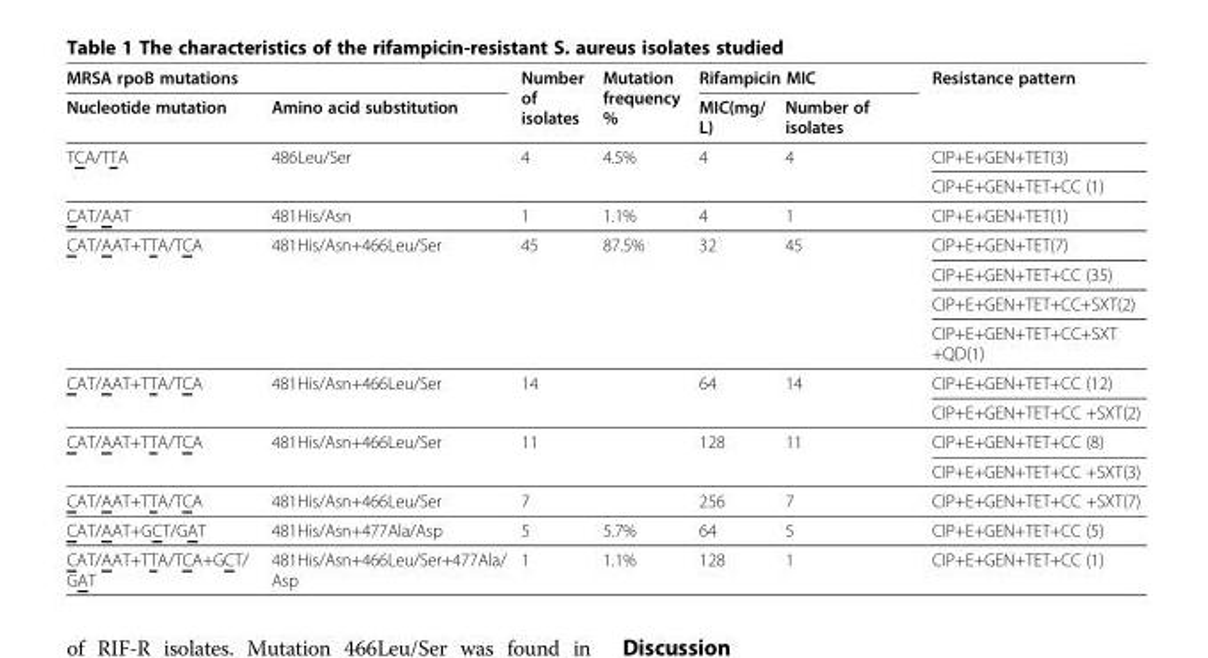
<table><thead><tr><td colspan="2">MRSA rpoB mutations</td><td rowspan="2">Number of isolates</td><td rowspan="2">Mutation frequency %</td><td colspan="2">Rifampicin MIC</td><td rowspan="2">Resistance pattern</td></tr><tr><td>Nucleotide mutation</td><td>Amino acid substitution</td><td>MIC(mg/ L)</td><td>Number of isolates</td></tr></thead><tbody><tr><td rowspan="2">TCA/TTA</td><td rowspan="2">486Leu/Ser</td><td rowspan="2">4</td><td rowspan="2">4.5%</td><td rowspan="2">4</td><td rowspan="2">4</td><td>CIP+E+GEN+TET(3)</td></tr><tr><td>CIP+E+GEN+TET+CC (1)</td></tr><tr><td>CAT/AAT</td><td>481His/Asn</td><td>1</td><td>1.1%</td><td>4</td><td>1</td><td>CIP+E+GEN+TET(1)</td></tr><tr><td rowspan="4">CAT/AAT+TTA/TCA</td><td rowspan="4">481His/Asn+466Leu/Ser</td><td rowspan="4">45</td><td rowspan="4">87.5%</td><td rowspan="4">32</td><td rowspan="4">45</td><td>CIP+E+GEN+TET(7)</td></tr><tr><td>CIP+E+GEN+TET+CC (35)</td></tr><tr><td>CIP+E+GEN+TET+CC+SXT(2)</td></tr><tr><td>CIP+E+GEN+TET+CC+SXT +QD(1)</td></tr><tr><td rowspan="2">CAT/AAT+TTA/TCA</td><td rowspan="2">481His/Asn+466Leu/Ser</td><td rowspan="2">14</td><td rowspan="2"></td><td rowspan="2">64</td><td rowspan="2">14</td><td>CIP+E+GEN+TET+CC (12)</td></tr><tr><td>CIP+E+GEN+TET+CC +SXT(2)</td></tr><tr><td rowspan="2">CAT/AAT+TTA/TCA</td><td rowspan="2">481His/Asn+466Leu/Ser</td><td rowspan="2">11</td><td rowspan="2"></td><td rowspan="2">128</td><td rowspan="2">11</td><td>CIP+E+GEN+TET+CC (8)</td></tr><tr><td>CIP+E+GEN+TET+CC +SXT(3)</td></tr><tr><td>CAT/AAT+TTA/TCA</td><td>481His/Asn+466Leu/Ser</td><td>7</td><td></td><td>256</td><td>7</td><td>CIP+E+GEN+TET+CC +SXT(7)</td></tr><tr><td>CAT/AAT+GCT/GAT</td><td>481His/Asn+477Ala/Asp</td><td>5</td><td>5.7%</td><td>64</td><td>5</td><td>CIP+E+GEN+TET+CC (5)</td></tr><tr><td>CAT/AAT+TTA/TCA+GCT/ GAT</td><td>481His/Asn+466Leu/Ser+477Ala/ Asp</td><td>1</td><td>1.1%</td><td>128</td><td>1</td><td>CIP+E+GEN+TET+CC (1)</td></tr></tbody></table>